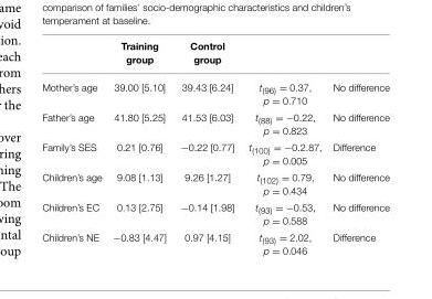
<table><thead><tr><td></td><td>Training group</td><td>Control group</td><td></td><td></td></tr></thead><tbody><tr><td>Mother’s age</td><td>39.00 [5.10]</td><td>39.43 [6.24]</td><td>t<sub>(96)</sub> = 0.37, p = 0.710</td><td>No difference</td></tr><tr><td>Father’s age</td><td>41.80 [5.25]</td><td>41.53 [6.03]</td><td>t<sub>(88)</sub> = −0.22, p = 0.823</td><td>No difference</td></tr><tr><td>Family’s SES</td><td>0.21 [0.76]</td><td>−0.22 [0.77]</td><td>t<sub>(100)</sub> = −0.2.87, p = 0.005</td><td>Difference</td></tr><tr><td>Children’s age</td><td>9.08 [1.13]</td><td>9.26 [1.27]</td><td>t<sub>(102)</sub> = 0.79, p = 0.434</td><td>No difference</td></tr><tr><td>Children’s EC</td><td>0.13 [2.75]</td><td>−0.14 [1.98]</td><td>t<sub>(93)</sub> = −0.53, p = 0.588</td><td>No difference</td></tr><tr><td>Children’s NE</td><td>−0.83 [4.47]</td><td>0.97 [4.15]</td><td>t<sub>(93)</sub> = 2.02, p = 0.046</td><td>Difference</td></tr></tbody></table>